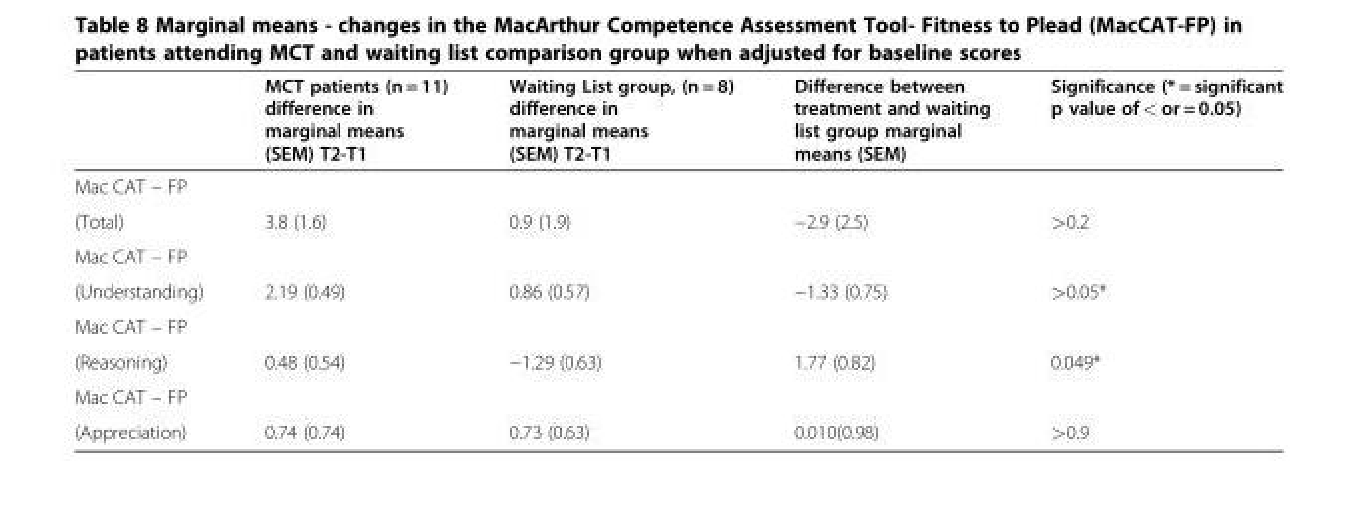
<table><thead><tr><td></td><td>MCT patients (n = 11) difference in marginal means (SEM) T2-T1</td><td>Waiting List group, (n = 8) difference in marginal means (SEM) T2-T1</td><td>Difference between treatment and waiting list group marginal means (SEM)</td><td>Significance (* = significant p value of &lt; or = 0.05)</td></tr></thead><tbody><tr><td colspan="5">Mac CAT – FP</td></tr><tr><td>(Total)</td><td>3.8 (1.6)</td><td>0.9 (1.9)</td><td>−2.9 (2.5)</td><td>&gt;0.2</td></tr><tr><td colspan="5">Mac CAT – FP</td></tr><tr><td>(Understanding)</td><td>2.19 (0.49)</td><td>0.86 (0.57)</td><td>−1.33 (0.75)</td><td>&gt;0.05*</td></tr><tr><td colspan="5">Mac CAT – FP</td></tr><tr><td>(Reasoning)</td><td>0.48 (0.54)</td><td>−1.29 (0.63)</td><td>1.77 (0.82)</td><td>0.049*</td></tr><tr><td colspan="5">Mac CAT – FP</td></tr><tr><td>(Appreciation)</td><td>0.74 (0.74)</td><td>0.73 (0.63)</td><td>0.010(0.98)</td><td>&gt;0.9</td></tr></tbody></table>